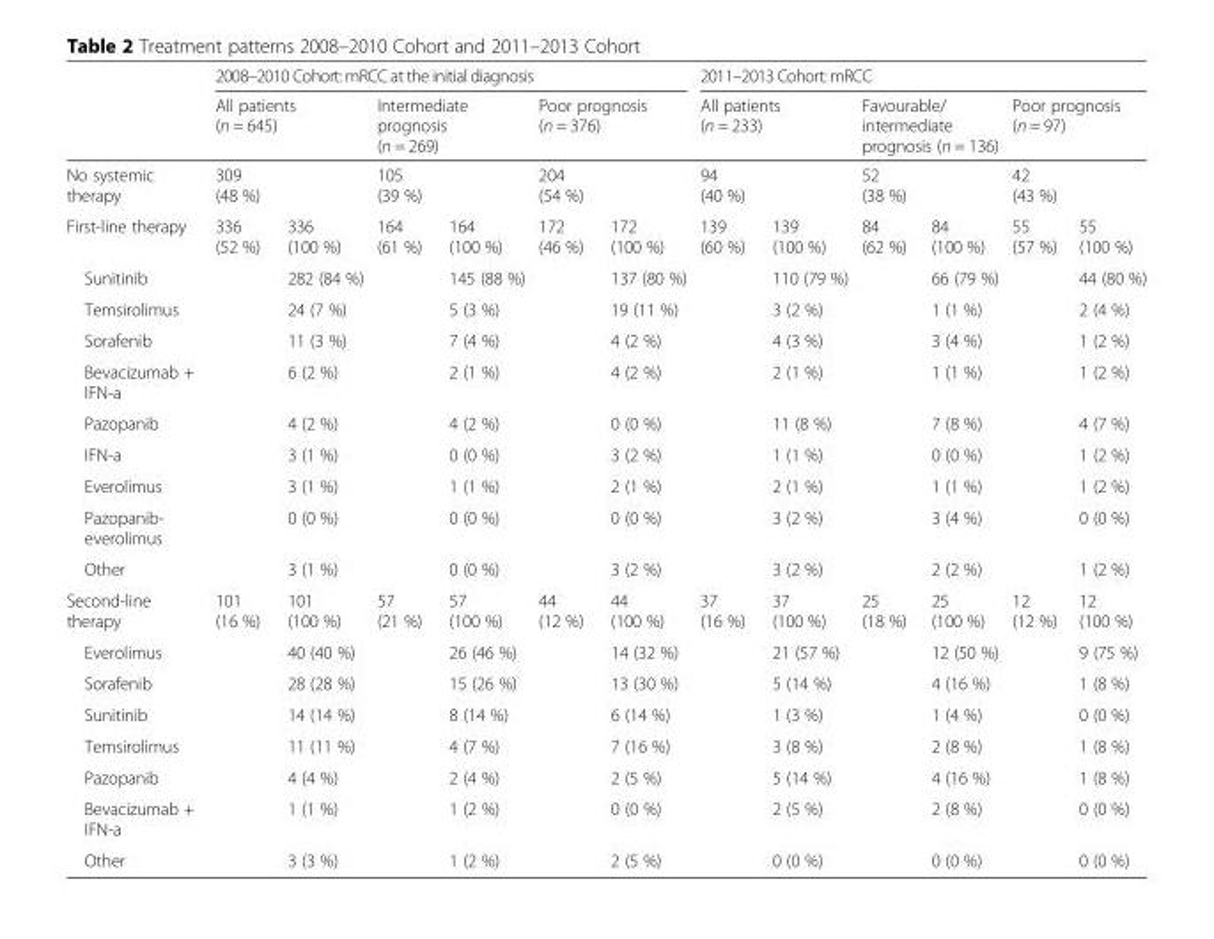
<table><thead><tr><td rowspan="3">No systemic therapy</td><td colspan="6">2008–2010 Cohort: mRCC at the initial diagnosis</td><td colspan="6">2011–2013 Cohort: mRCC</td></tr><tr><td colspan="2">All patients (n = 645)</td><td colspan="2">Intermediate prognosis (n = 269)</td><td colspan="2">Poor prognosis (n = 376)</td><td colspan="2">All patients (n = 233)</td><td colspan="2">Favourable/ intermediate prognosis (n = 136)</td><td colspan="2">Poor prognosis (n = 97)</td></tr><tr><td>309 (48 %)</td><td></td><td>105 (39 %)</td><td></td><td>204 (54 %)</td><td></td><td>94 (40 %)</td><td></td><td>52 (38 %)</td><td></td><td>42 (43 %)</td><td></td></tr></thead><tbody><tr><td>First-line therapy</td><td>336 (52 %)</td><td>336 (100 %)</td><td>164 (61 %)</td><td>164 (100 %)</td><td>172 (46 %)</td><td>172 (100 %)</td><td>139 (60 %)</td><td>139 (100 %)</td><td>84 (62 %)</td><td>84 (100 %)</td><td>55 (57 %)</td><td>55 (100 %)</td></tr><tr><td>Sunitinib</td><td></td><td>282 (84 %)</td><td></td><td>145 (88 %)</td><td></td><td>137 (80 %)</td><td></td><td>110 (79 %)</td><td></td><td>66 (79 %)</td><td></td><td>44 (80 %)</td></tr><tr><td>Temsirolimus</td><td></td><td>24 (7 %)</td><td></td><td>5 (3 %)</td><td></td><td>19 (11 %)</td><td></td><td>3 (2 %)</td><td></td><td>1 (1 %)</td><td></td><td>2 (4 %)</td></tr><tr><td>Sorafenib</td><td></td><td>11 (3 %)</td><td></td><td>7 (4 %)</td><td></td><td>4 (2 %)</td><td></td><td>4 (3 %)</td><td></td><td>3 (4 %)</td><td></td><td>1 (2 %)</td></tr><tr><td>Bevacizumab + IFN-a</td><td></td><td>6 (2 %)</td><td></td><td>2 (1 %)</td><td></td><td>4 (2 %)</td><td></td><td>2 (1 %)</td><td></td><td>1 (1 %)</td><td></td><td>1 (2 %)</td></tr><tr><td>Pazopanib</td><td></td><td>4 (2 %)</td><td></td><td>4 (2 %)</td><td></td><td>0 (0 %)</td><td></td><td>11 (8 %)</td><td></td><td>7 (8 %)</td><td></td><td>4 (7 %)</td></tr><tr><td>IFN-a</td><td></td><td>3 (1 %)</td><td></td><td>0 (0 %)</td><td></td><td>3 (2 %)</td><td></td><td>1 (1 %)</td><td></td><td>0 (0 %)</td><td></td><td>1 (2 %)</td></tr><tr><td>Everolimus</td><td></td><td>3 (1 %)</td><td></td><td>1 (1 %)</td><td></td><td>2 (1 %)</td><td></td><td>2 (1 %)</td><td></td><td>1 (1 %)</td><td></td><td>1 (2 %)</td></tr><tr><td>Pazopanib- everolimus</td><td></td><td>0 (0 %)</td><td></td><td>0 (0 %)</td><td></td><td>0 (0 %)</td><td></td><td>3 (2 %)</td><td></td><td>3 (4 %)</td><td></td><td>0 (0 %)</td></tr><tr><td>Other</td><td></td><td>3 (1 %)</td><td></td><td>0 (0 %)</td><td></td><td>3 (2 %)</td><td></td><td>3 (2 %)</td><td></td><td>2 (2 %)</td><td></td><td>1 (2 %)</td></tr><tr><td>Second-line therapy</td><td>101 (16 %)</td><td>101 (100 %)</td><td>57 (21 %)</td><td>57 (100 %)</td><td>44 (12 %)</td><td>44 (100 %)</td><td>37 (16 %)</td><td>37 (100 %)</td><td>25 (18 %)</td><td>25 (100 %)</td><td>12 (12 %)</td><td>12 (100 %)</td></tr><tr><td>Everolimus</td><td></td><td>40 (40 %)</td><td></td><td>26 (46 %)</td><td></td><td>14 (32 %)</td><td></td><td>21 (57 %)</td><td></td><td>12 (50 %)</td><td></td><td>9 (75 %)</td></tr><tr><td>Sorafenib</td><td></td><td>28 (28 %)</td><td></td><td>15 (26 %)</td><td></td><td>13 (30 %)</td><td></td><td>5 (14 %)</td><td></td><td>4 (16 %)</td><td></td><td>1 (8 %)</td></tr><tr><td>Sunitinib</td><td></td><td>14 (14 %)</td><td></td><td>8 (14 %)</td><td></td><td>6 (14 %)</td><td></td><td>1 (3 %)</td><td></td><td>1 (4 %)</td><td></td><td>0 (0 %)</td></tr><tr><td>Temsirolimus</td><td></td><td>11 (11 %)</td><td></td><td>4 (7 %)</td><td></td><td>7 (16 %)</td><td></td><td>3 (8 %)</td><td></td><td>2 (8 %)</td><td></td><td>1 (8 %)</td></tr><tr><td>Pazopanib</td><td></td><td>4 (4 %)</td><td></td><td>2 (4 %)</td><td></td><td>2 (5 %)</td><td></td><td>5 (14 %)</td><td></td><td>4 (16 %)</td><td></td><td>1 (8 %)</td></tr><tr><td>Bevacizumab + IFN-a</td><td></td><td>1 (1 %)</td><td></td><td>1 (2 %)</td><td></td><td>0 (0 %)</td><td></td><td>2 (5 %)</td><td></td><td>2 (8 %)</td><td></td><td>0 (0 %)</td></tr><tr><td>Other</td><td></td><td>3 (3 %)</td><td></td><td>1 (2 %)</td><td></td><td>2 (5 %)</td><td></td><td>0 (0 %)</td><td></td><td>0 (0 %)</td><td></td><td>0 (0 %)</td></tr></tbody></table>